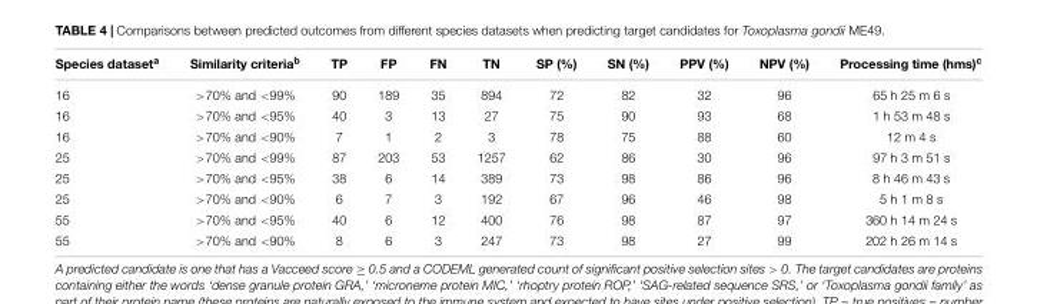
<table><thead><tr><td>Species dataset<sup>a</sup></td><td>Similarity criteria<sup>b</sup></td><td>TP</td><td>FP</td><td>FN</td><td>TN</td><td>SP (%)</td><td>SN (%)</td><td>PPV (%)</td><td>NPV (%)</td><td>Processing time (hms)<sup>c</sup></td></tr></thead><tbody><tr><td>16</td><td>&gt;70% and &lt;99%</td><td>90</td><td>189</td><td>35</td><td>894</td><td>72</td><td>82</td><td>32</td><td>96</td><td>65 h 25 m 6 s</td></tr><tr><td>16</td><td>&gt;70% and &lt;95%</td><td>40</td><td>3</td><td>13</td><td>27</td><td>75</td><td>90</td><td>93</td><td>68</td><td>1 h 53 m 48 s</td></tr><tr><td>16</td><td>&gt;70% and &lt;90%</td><td>7</td><td>1</td><td>2</td><td>3</td><td>78</td><td>75</td><td>88</td><td>60</td><td>12 m 4 s</td></tr><tr><td>25</td><td>&gt;70% and &lt;99%</td><td>87</td><td>203</td><td>53</td><td>1257</td><td>62</td><td>86</td><td>30</td><td>96</td><td>97 h 3 m 51 s</td></tr><tr><td>25</td><td>&gt;70% and &lt;95%</td><td>38</td><td>6</td><td>14</td><td>389</td><td>73</td><td>98</td><td>86</td><td>96</td><td>8 h 46 m 43 s</td></tr><tr><td>25</td><td>&gt;70% and &lt;90%</td><td>6</td><td>7</td><td>3</td><td>192</td><td>67</td><td>96</td><td>46</td><td>98</td><td>5 h 1 m 8 s</td></tr><tr><td>55</td><td>&gt;70% and &lt;95%</td><td>40</td><td>6</td><td>12</td><td>400</td><td>76</td><td>98</td><td>87</td><td>97</td><td>360 h 14 m 24 s</td></tr><tr><td>55</td><td>&gt;70% and &lt;90%</td><td>8</td><td>6</td><td>3</td><td>247</td><td>73</td><td>98</td><td>27</td><td>99</td><td>202 h 26 m 14 s</td></tr></tbody></table>